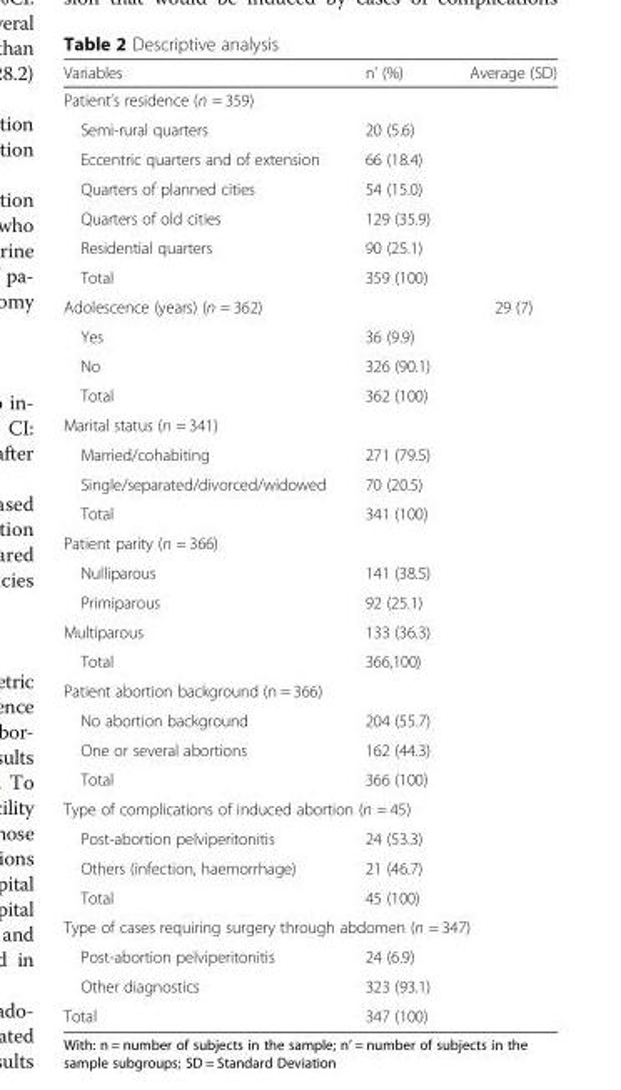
<table><thead><tr><td>Variables</td><td>n’ (%)</td><td>Average (SD)</td></tr></thead><tbody><tr><td colspan="3">Patient’s residence (n = 359)</td></tr><tr><td>Semi-rural quarters</td><td>20 (5.6)</td><td></td></tr><tr><td>Eccentric quarters and of extension</td><td>66 (18.4)</td><td></td></tr><tr><td>Quarters of planned cities</td><td>54 (15.0)</td><td></td></tr><tr><td>Quarters of old cities</td><td>129 (35.9)</td><td></td></tr><tr><td>Residential quarters</td><td>90 (25.1)</td><td></td></tr><tr><td>Total</td><td>359 (100)</td><td></td></tr><tr><td>Adolescence (years) (n = 362)</td><td></td><td>29 (7)</td></tr><tr><td>Yes</td><td>36 (9.9)</td><td></td></tr><tr><td>No</td><td>326 (90.1)</td><td></td></tr><tr><td>Total</td><td>362 (100)</td><td></td></tr><tr><td colspan="3">Marital status (n = 341)</td></tr><tr><td>Married/cohabiting</td><td>271 (79.5)</td><td></td></tr><tr><td>Single/separated/divorced/widowed</td><td>70 (20.5)</td><td></td></tr><tr><td>Total</td><td>341 (100)</td><td></td></tr><tr><td colspan="3">Patient parity (n = 366)</td></tr><tr><td>Nulliparous</td><td>141 (38.5)</td><td></td></tr><tr><td>Primiparous</td><td>92 (25.1)</td><td></td></tr><tr><td>Multiparous</td><td>133 (36.3)</td><td></td></tr><tr><td>Total</td><td>366,100)</td><td></td></tr><tr><td colspan="3">Patient abortion background (n = 366)</td></tr><tr><td>No abortion background</td><td>204 (55.7)</td><td></td></tr><tr><td>One or several abortions</td><td>162 (44.3)</td><td></td></tr><tr><td>Total</td><td>366 (100)</td><td></td></tr><tr><td colspan="3">Type of complications of induced abortion (n = 45)</td></tr><tr><td>Post-abortion pelviperitonitis</td><td>24 (53.3)</td><td></td></tr><tr><td>Others (infection, haemorrhage)</td><td>21 (46.7)</td><td></td></tr><tr><td>Total</td><td>45 (100)</td><td></td></tr><tr><td colspan="3">Type of cases requiring surgery through abdomen (n = 347)</td></tr><tr><td>Post-abortion pelviperitonitis</td><td>24 (6.9)</td><td></td></tr><tr><td>Other diagnostics</td><td>323 (93.1)</td><td></td></tr><tr><td>Total</td><td>347 (100)</td><td></td></tr></tbody></table>